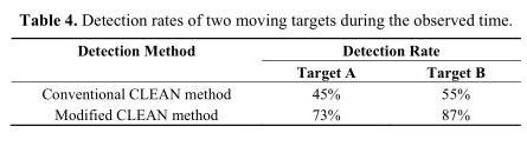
<table><thead><tr><td rowspan="2">Detection Method</td><td colspan="2">Detection Rate</td></tr><tr><td>Target A</td><td>Target B</td></tr></thead><tbody><tr><td>Conventional CLEAN method</td><td>45%</td><td>55%</td></tr><tr><td>Modified CLEAN method</td><td>73%</td><td>87%</td></tr></tbody></table>